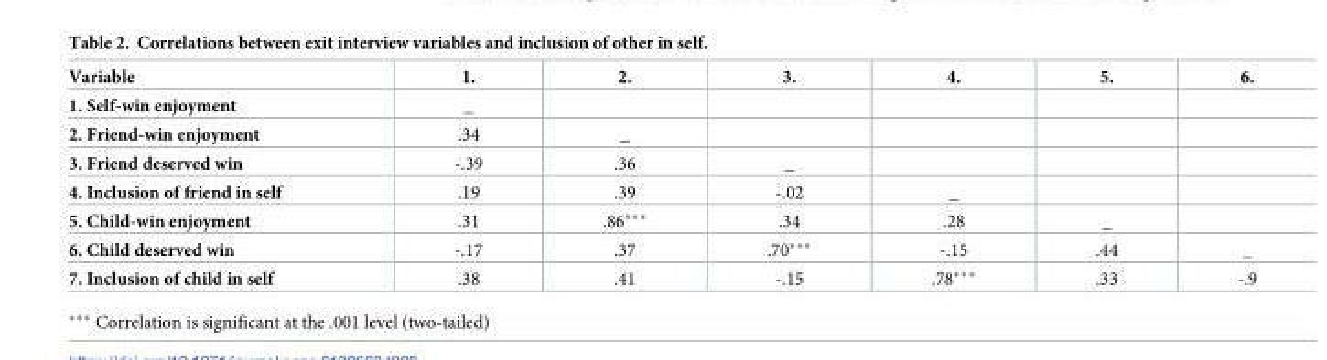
<table><thead><tr><td>Variable</td><td>1.</td><td>2.</td><td>3.</td><td>4.</td><td>5.</td><td>6.</td></tr></thead><tbody><tr><td>1. Self-win enjoyment</td><td>_</td><td></td><td></td><td></td><td></td><td></td></tr><tr><td>2. Friend-win enjoyment</td><td>.34</td><td>_</td><td></td><td></td><td></td><td></td></tr><tr><td>3. Friend deserved win</td><td>-.39</td><td>.36</td><td>_</td><td></td><td></td><td></td></tr><tr><td>4. Inclusion of friend in self</td><td>.19</td><td>.39</td><td>-.02</td><td>_</td><td></td><td></td></tr><tr><td>5. Child-win enjoyment</td><td>.31</td><td>.86***</td><td>.34</td><td>.28</td><td>_</td><td></td></tr><tr><td>6. Child deserved win</td><td>-.17</td><td>.37</td><td>.70***</td><td>-.15</td><td>.44</td><td>_</td></tr><tr><td>7. Inclusion of child in self</td><td>.38</td><td>.41</td><td>-.15</td><td>.78***</td><td>.33</td><td>-.9</td></tr></tbody></table>